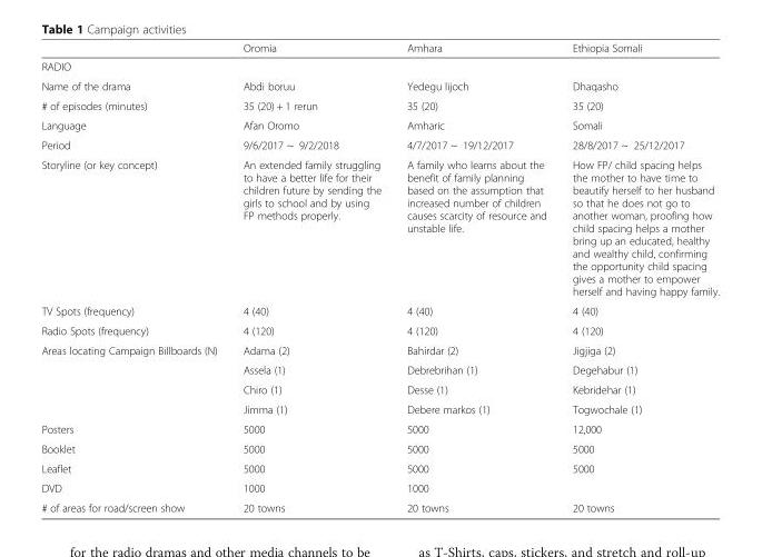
<table><thead><tr><td></td><td>Oromia</td><td>Amhara</td><td>Ethiopia Somali</td></tr></thead><tbody><tr><td colspan="4">RADIO</td></tr><tr><td>Name of the drama</td><td>Abdi boruu</td><td>Yedegu lijoch</td><td>Dhaqasho</td></tr><tr><td># of episodes (minutes)</td><td>35 (20) + 1 rerun</td><td>35 (20)</td><td>35 (20)</td></tr><tr><td>Language</td><td>Afan Oromo</td><td>Amharic</td><td>Somali</td></tr><tr><td>Period</td><td>9/6/2017 ~ 9/2/2018</td><td>4/7/2017 ~ 19/12/2017</td><td>28/8/2017 ~ 25/12/2017</td></tr><tr><td>Storyline (or key concept)</td><td>An extended family struggling to have a better life for their children future by sending the girls to school and by using FP methods properly.</td><td>A family who learns about the benefit of family planning based on the assumption that increased number of children causes scarcity of resource and unstable life.</td><td>How FP/ child spacing helps the mother to have time to beautify herself to her husband so that he does not go to another woman, proofing how child spacing helps a mother bring up an educated, healthy and wealthy child, confirming the opportunity child spacing gives a mother to empower herself and having happy family.</td></tr><tr><td>TV Spots (frequency)</td><td>4 (40)</td><td>4 (40)</td><td>4 (40)</td></tr><tr><td>Radio Spots (frequency)</td><td>4 (120)</td><td>4 (120)</td><td>4 (120)</td></tr><tr><td rowspan="4">Areas locating Campaign Billboards (N)</td><td>Adama (2)</td><td>Bahirdar (2)</td><td>Jigjiga (2)</td></tr><tr><td>Assela (1)</td><td>Debrebrihan (1)</td><td>Degehabur (1)</td></tr><tr><td>Chiro (1)</td><td>Desse (1)</td><td>Kebridehar (1)</td></tr><tr><td>Jimma (1)</td><td>Debere markos (1)</td><td>Togwochale (1)</td></tr><tr><td>Posters</td><td>5000</td><td>5000</td><td>12,000</td></tr><tr><td>Booklet</td><td>5000</td><td>5000</td><td>5000</td></tr><tr><td>Leaflet</td><td>5000</td><td>5000</td><td>5000</td></tr><tr><td>DVD</td><td>1000</td><td>1000</td><td></td></tr><tr><td># of areas for road/screen show</td><td>20 towns</td><td>20 towns</td><td>20 towns</td></tr></tbody></table>